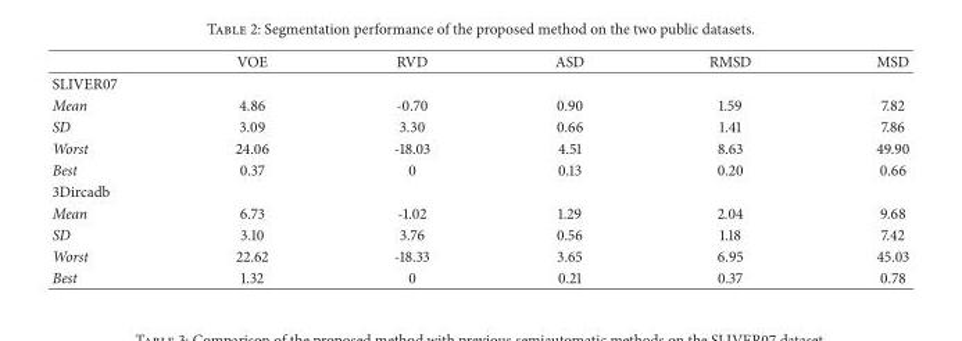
<table><thead><tr><td></td><td>VOE</td><td>RVD</td><td>ASD</td><td>RMSD</td><td>MSD</td></tr></thead><tbody><tr><td colspan="6">SLIVER07</td></tr><tr><td>Mean</td><td>4.86</td><td>-0.70</td><td>0.90</td><td>1.59</td><td>7.82</td></tr><tr><td>SD</td><td>3.09</td><td>3.30</td><td>0.66</td><td>1.41</td><td>7.86</td></tr><tr><td>Worst</td><td>24.06</td><td>-18.03</td><td>4.51</td><td>8.63</td><td>49.90</td></tr><tr><td>Best</td><td>0.37</td><td>0</td><td>0.13</td><td>0.20</td><td>0.66</td></tr><tr><td colspan="6">3Dircadb</td></tr><tr><td>Mean</td><td>6.73</td><td>-1.02</td><td>1.29</td><td>2.04</td><td>9.68</td></tr><tr><td>SD</td><td>3.10</td><td>3.76</td><td>0.56</td><td>1.18</td><td>7.42</td></tr><tr><td>Worst</td><td>22.62</td><td>-18.33</td><td>3.65</td><td>6.95</td><td>45.03</td></tr><tr><td>Best</td><td>1.32</td><td>0</td><td>0.21</td><td>0.37</td><td>0.78</td></tr></tbody></table>